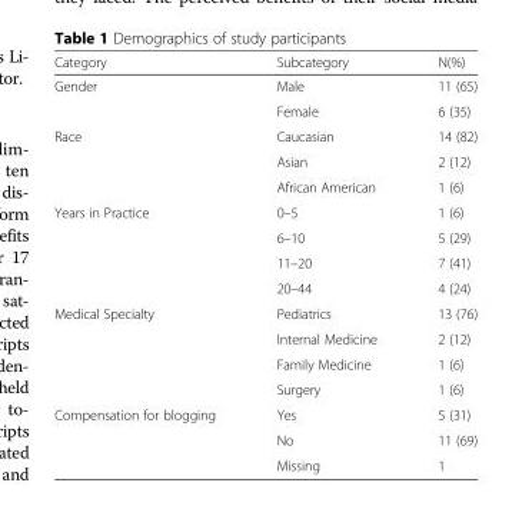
<table><thead><tr><td>Category</td><td>Subcategory</td><td>N(%)</td></tr></thead><tbody><tr><td rowspan="2">Gender</td><td>Male</td><td>11 (65)</td></tr><tr><td>Female</td><td>6 (35)</td></tr><tr><td rowspan="3">Race</td><td>Caucasian</td><td>14 (82)</td></tr><tr><td>Asian</td><td>2 (12)</td></tr><tr><td>African American</td><td>1 (6)</td></tr><tr><td rowspan="4">Years in Practice</td><td>0–5</td><td>1 (6)</td></tr><tr><td>6–10</td><td>5 (29)</td></tr><tr><td>11–20</td><td>7 (41)</td></tr><tr><td>20–44</td><td>4 (24)</td></tr><tr><td rowspan="4">Medical Specialty</td><td>Pediatrics</td><td>13 (76)</td></tr><tr><td>Internal Medicine</td><td>2 (12)</td></tr><tr><td>Family Medicine</td><td>1 (6)</td></tr><tr><td>Surgery</td><td>1 (6)</td></tr><tr><td rowspan="3">Compensation for blogging</td><td>Yes</td><td>5 (31)</td></tr><tr><td>No</td><td>11 (69)</td></tr><tr><td>Missing</td><td>1</td></tr></tbody></table>